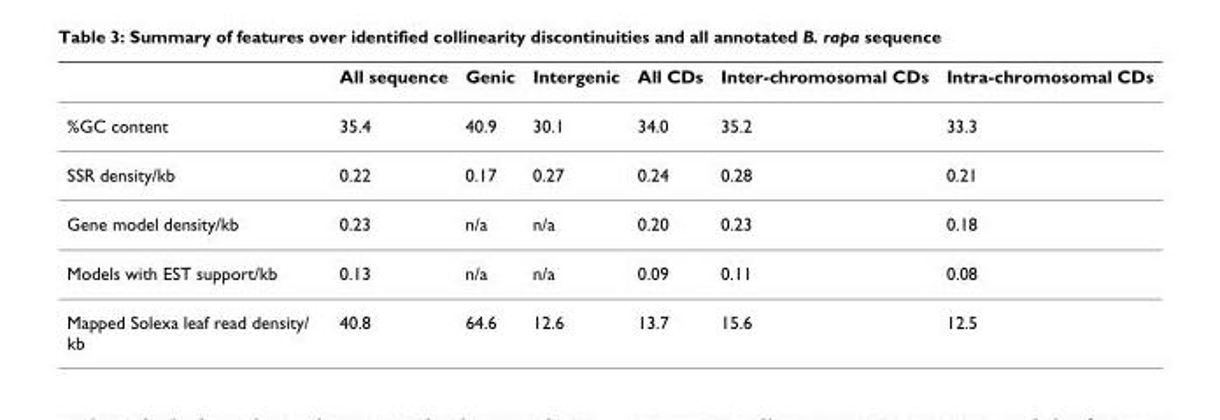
<table><thead><tr><td></td><td>All sequence</td><td>Genic</td><td>Intergenic</td><td>All CDs</td><td>Inter-chromosomal CDs</td><td>Intra-chromosomal CDs</td></tr></thead><tbody><tr><td>%GC content</td><td>35.4</td><td>40.9</td><td>30.1</td><td>34.0</td><td>35.2</td><td>33.3</td></tr><tr><td>SSR density/kb</td><td>0.22</td><td>0.17</td><td>0.27</td><td>0.24</td><td>0.28</td><td>0.21</td></tr><tr><td>Gene model density/kb</td><td>0.23</td><td>n/a</td><td>n/a</td><td>0.20</td><td>0.23</td><td>0.18</td></tr><tr><td>Models with EST support/kb</td><td>0.13</td><td>n/a</td><td>n/a</td><td>0.09</td><td>0.11</td><td>0.08</td></tr><tr><td>Mapped Solexa leaf read density/ kb</td><td>40.8</td><td>64.6</td><td>12.6</td><td>13.7</td><td>15.6</td><td>12.5</td></tr></tbody></table>